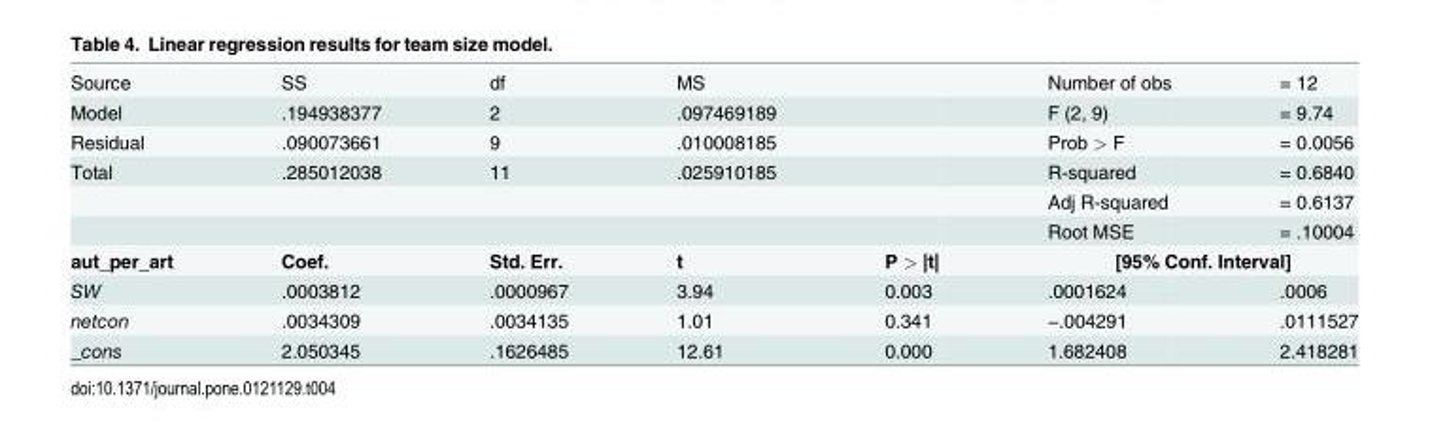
<table><tbody><tr><td>Source</td><td>SS</td><td>df</td><td>MS</td><td></td><td>Number of obs</td><td>= 12</td></tr><tr><td>Model</td><td>.194938377</td><td>2</td><td>.097469189</td><td></td><td>F (2, 9)</td><td>= 9.74</td></tr><tr><td>Residual</td><td>.090073661</td><td>9</td><td>.010008185</td><td></td><td>Prob &gt; F</td><td>= 0.0056</td></tr><tr><td rowspan="3">Total</td><td>.285012038</td><td>11</td><td>.025910185</td><td></td><td>R-squared</td><td>= 0.6840</td></tr><tr><td></td><td></td><td></td><td></td><td>Adj R-squared</td><td>= 0.6137</td></tr><tr><td></td><td></td><td></td><td></td><td>Root MSE</td><td>= .10004</td></tr><tr><td>aut_per_art</td><td>Coef.</td><td>Std. Err.</td><td>t</td><td>P &gt; |t|</td><td colspan="2">[95% Conf. Interval]</td></tr><tr><td>SW</td><td>.0003812</td><td>.0000967</td><td>3.94</td><td>0.003</td><td>.0001624</td><td>.0006</td></tr><tr><td>netcon</td><td>.0034309</td><td>.0034135</td><td>1.01</td><td>0.341</td><td>−.004291</td><td>.0111527</td></tr><tr><td>_cons</td><td>2.050345</td><td>.1626485</td><td>12.61</td><td>0.000</td><td>1.682408</td><td>2.418281</td></tr></tbody></table>